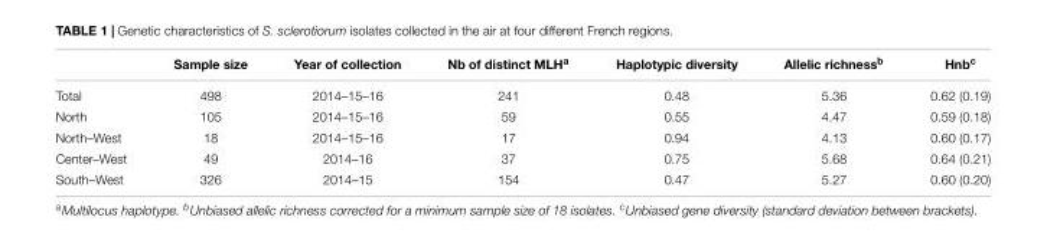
<table><thead><tr><td></td><td>Sample size</td><td>Year of collection</td><td>Nb of distinct MLH<sup>a</sup></td><td>Haplotypic diversity</td><td>Allelic richness<sup>b</sup></td><td>Hnb<sup>c</sup></td></tr></thead><tbody><tr><td>Total</td><td>498</td><td>2014–15–16</td><td>241</td><td>0.48</td><td>5.36</td><td>0.62 (0.19)</td></tr><tr><td>North</td><td>105</td><td>2014–15–16</td><td>59</td><td>0.55</td><td>4.47</td><td>0.59 (0.18)</td></tr><tr><td>North–West</td><td>18</td><td>2014–15–16</td><td>17</td><td>0.94</td><td>4.13</td><td>0.60 (0.17)</td></tr><tr><td>Center–West</td><td>49</td><td>2014–16</td><td>37</td><td>0.75</td><td>5.68</td><td>0.64 (0.21)</td></tr><tr><td>South–West</td><td>326</td><td>2014–15</td><td>154</td><td>0.47</td><td>5.27</td><td>0.60 (0.20)</td></tr></tbody></table>